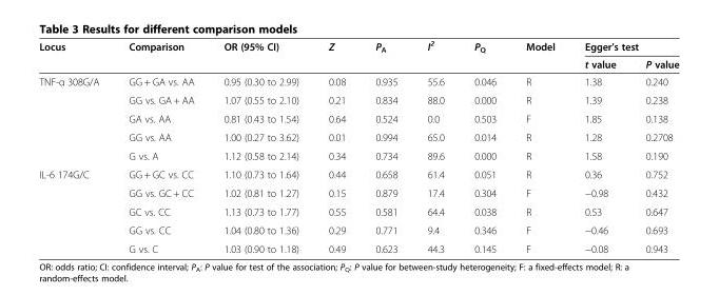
<table><thead><tr><td rowspan="2">Locus</td><td rowspan="2">Comparison</td><td rowspan="2">OR (95% CI)</td><td rowspan="2">Z</td><td rowspan="2">PA</td><td rowspan="2">I2</td><td rowspan="2">PQ</td><td rowspan="2">Model</td><td colspan="2">Egger’s test</td></tr><tr><td>t value</td><td>P value</td></tr></thead><tbody><tr><td rowspan="5">TNF-α 308G/A</td><td>GG + GA vs. AA</td><td>0.95 (0.30 to 2.99)</td><td>0.08</td><td>0.935</td><td>55.6</td><td>0.046</td><td>R</td><td>1.38</td><td>0.240</td></tr><tr><td>GG vs. GA + AA</td><td>1.07 (0.55 to 2.10)</td><td>0.21</td><td>0.834</td><td>88.0</td><td>0.000</td><td>R</td><td>1.39</td><td>0.238</td></tr><tr><td>GA vs. AA</td><td>0.81 (0.43 to 1.54)</td><td>0.64</td><td>0.524</td><td>0.0</td><td>0.503</td><td>F</td><td>1.85</td><td>0.138</td></tr><tr><td>GG vs. AA</td><td>1.00 (0.27 to 3.62)</td><td>0.01</td><td>0.994</td><td>65.0</td><td>0.014</td><td>R</td><td>1.28</td><td>0.2708</td></tr><tr><td>G vs. A</td><td>1.12 (0.58 to 2.14)</td><td>0.34</td><td>0.734</td><td>89.6</td><td>0.000</td><td>R</td><td>1.58</td><td>0.190</td></tr><tr><td rowspan="5">IL-6 174G/C</td><td>GG + GC vs. CC</td><td>1.10 (0.73 to 1.64)</td><td>0.44</td><td>0.658</td><td>61.4</td><td>0.051</td><td>R</td><td>0.36</td><td>0.752</td></tr><tr><td>GG vs. GC + CC</td><td>1.02 (0.81 to 1.27)</td><td>0.15</td><td>0.879</td><td>17.4</td><td>0.304</td><td>F</td><td>−0.98</td><td>0.432</td></tr><tr><td>GC vs. CC</td><td>1.13 (0.73 to 1.77)</td><td>0.55</td><td>0.581</td><td>64.4</td><td>0.038</td><td>R</td><td>0.53</td><td>0.647</td></tr><tr><td>GG vs. CC</td><td>1.04 (0.80 to 1.36)</td><td>0.29</td><td>0.771</td><td>9.4</td><td>0.346</td><td>F</td><td>−0.46</td><td>0.693</td></tr><tr><td>G vs. C</td><td>1.03 (0.90 to 1.18)</td><td>0.49</td><td>0.623</td><td>44.3</td><td>0.145</td><td>F</td><td>−0.08</td><td>0.943</td></tr></tbody></table>